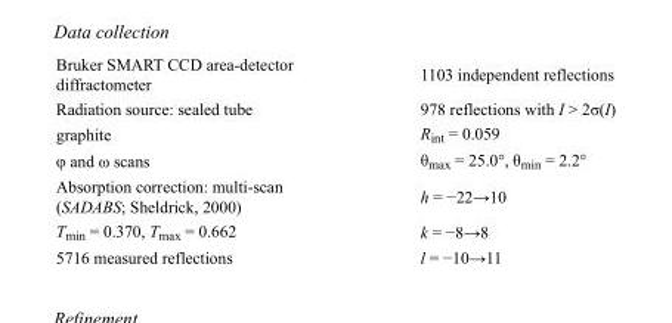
<table><tbody><tr><td>Bruker SMART CCD area-detector diffractometer</td><td>1103 independent reflections</td></tr><tr><td>Radiation source: sealed tube</td><td>978 reflections with I &gt; 2σ(I)</td></tr><tr><td>graphite</td><td>R<sub>int</sub> = 0.059</td></tr><tr><td>φ and ω scans</td><td>θ<sub>max</sub> = 25.0°, θ<sub>min</sub> = 2.2°</td></tr><tr><td>Absorption correction: multi-scan (SADABS; Sheldrick, 2000)</td><td>h = −22→10</td></tr><tr><td>T<sub>min</sub> = 0.370, T<sub>max</sub> = 0.662</td><td>k = −8→8</td></tr><tr><td>5716 measured reflections</td><td>l = −10→11</td></tr></tbody></table>